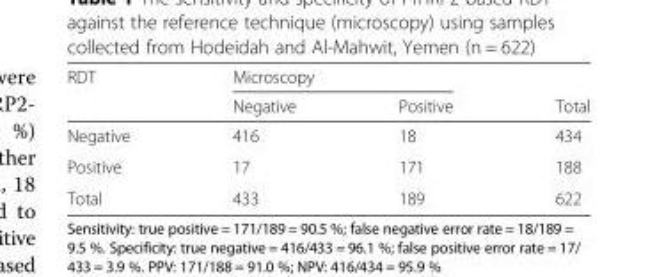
<table><thead><tr><td rowspan="2">RDT</td><td colspan="2">Microscopy</td><td rowspan="2">Total</td></tr><tr><td>Negative</td><td>Positive</td></tr></thead><tbody><tr><td>Negative</td><td>416</td><td>18</td><td>434</td></tr><tr><td>Positive</td><td>17</td><td>171</td><td>188</td></tr><tr><td>Total</td><td>433</td><td>189</td><td>622</td></tr></tbody></table>